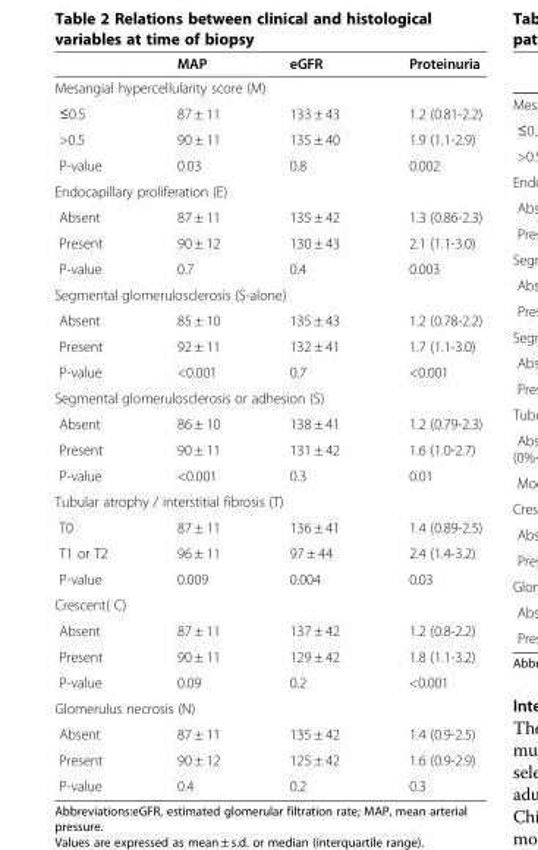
<table><thead><tr><td></td><td>MAP</td><td>eGFR</td><td>Proteinuria</td></tr></thead><tbody><tr><td colspan="4">Mesangial hypercellularity score (M)</td></tr><tr><td>≤0.5</td><td>87 ± 11</td><td>133 ± 43</td><td>1.2 (0.81-2.2)</td></tr><tr><td>&gt;0.5</td><td>90 ± 11</td><td>135 ± 40</td><td>1.9 (1.1-2.9)</td></tr><tr><td>P-value</td><td>0.03</td><td>0.8</td><td>0.002</td></tr><tr><td colspan="4">Endocapillary proliferation (E)</td></tr><tr><td>Absent</td><td>87 ± 11</td><td>135 ± 42</td><td>1.3 (0.86-2.3)</td></tr><tr><td>Present</td><td>90 ± 12</td><td>130 ± 43</td><td>2.1 (1.1-3.0)</td></tr><tr><td>P-value</td><td>0.7</td><td>0.4</td><td>0.003</td></tr><tr><td colspan="4">Segmental glomerulosclerosis (S-alone)</td></tr><tr><td>Absent</td><td>85 ± 10</td><td>135 ± 43</td><td>1.2 (0.78-2.2)</td></tr><tr><td>Present</td><td>92 ± 11</td><td>132 ± 41</td><td>1.7 (1.1-3.0)</td></tr><tr><td>P-value</td><td>&lt;0.001</td><td>0.7</td><td>&lt;0.001</td></tr><tr><td colspan="4">Segmental glomerulosclerosis or adhesion (S)</td></tr><tr><td>Absent</td><td>86 ± 10</td><td>138 ± 41</td><td>1.2 (0.79-2.3)</td></tr><tr><td>Present</td><td>90 ± 11</td><td>131 ± 42</td><td>1.6 (1.0-2.7)</td></tr><tr><td>P-value</td><td>&lt;0.001</td><td>0.3</td><td>0.01</td></tr><tr><td colspan="4">Tubular atrophy / interstitial fibrosis (T)</td></tr><tr><td>T0</td><td>87 ± 11</td><td>136 ± 41</td><td>1.4 (0.89-2.5)</td></tr><tr><td>T1 or T2</td><td>96 ± 11</td><td>97 ± 44</td><td>2.4 (1.4-3.2)</td></tr><tr><td>P-value</td><td>0.009</td><td>0.004</td><td>0.03</td></tr><tr><td colspan="4">Crescent( C)</td></tr><tr><td>Absent</td><td>87 ± 11</td><td>137 ± 42</td><td>1.2 (0.8-2.2)</td></tr><tr><td>Present</td><td>90 ± 11</td><td>129 ± 42</td><td>1.8 (1.1-3.2)</td></tr><tr><td>P-value</td><td>0.09</td><td>0.2</td><td>&lt;0.001</td></tr><tr><td colspan="4">Glomerulus necrosis (N)</td></tr><tr><td>Absent</td><td>87 ± 11</td><td>135 ± 42</td><td>1.4 (0.9-2.5)</td></tr><tr><td>Present</td><td>90 ± 12</td><td>125 ± 42</td><td>1.6 (0.9-2.9)</td></tr><tr><td>P-value</td><td>0.4</td><td>0.2</td><td>0.3</td></tr></tbody></table>